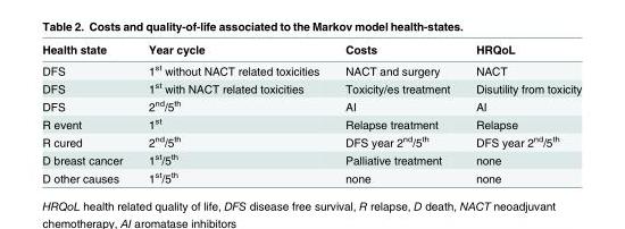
<table><thead><tr><td>Health state</td><td>Year cycle</td><td>Costs</td><td>HRQoL</td></tr></thead><tbody><tr><td>DFS</td><td>1<sup>st</sup> without NACT related toxicities</td><td>NACT and surgery</td><td>NACT</td></tr><tr><td>DFS</td><td>1<sup>st</sup> with NACT related toxicities</td><td>Toxicity/es treatment</td><td>Disutility from toxicity</td></tr><tr><td>DFS</td><td>2<sup>nd</sup>/5<sup>th</sup></td><td>AI</td><td>AI</td></tr><tr><td>R event</td><td>1<sup>st</sup></td><td>Relapse treatment</td><td>Relapse</td></tr><tr><td>R cured</td><td>2<sup>nd</sup>/5<sup>th</sup></td><td>DFS year 2<sup>nd</sup>/5<sup>th</sup></td><td>DFS year 2<sup>nd</sup>/5<sup>th</sup></td></tr><tr><td>D breast cancer</td><td>1<sup>st</sup>/5<sup>th</sup></td><td>Palliative treatment</td><td>none</td></tr><tr><td>D other causes</td><td>1<sup>st</sup>/5<sup>th</sup></td><td>none</td><td>none</td></tr></tbody></table>